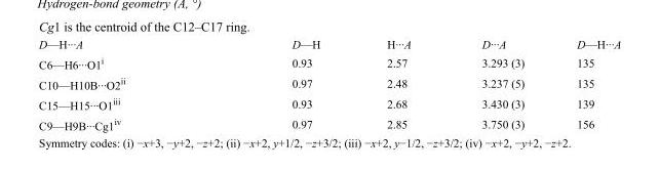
<table><tbody><tr><td>D—H···A</td><td>D—H</td><td>H···A</td><td>D···A</td><td>D—H···A</td></tr><tr><td>C6—H6···O1<sup>i</sup></td><td>0.93</td><td>2.57</td><td>3.293 (3)</td><td>135</td></tr><tr><td>C10—H10B···O2<sup>ii</sup></td><td>0.97</td><td>2.48</td><td>3.237 (5)</td><td>135</td></tr><tr><td>C15—H15···O1<sup>iii</sup></td><td>0.93</td><td>2.68</td><td>3.430 (3)</td><td>139</td></tr><tr><td>C9—H9B···Cg1<sup>iv</sup></td><td>0.97</td><td>2.85</td><td>3.750 (3)</td><td>156</td></tr></tbody></table>